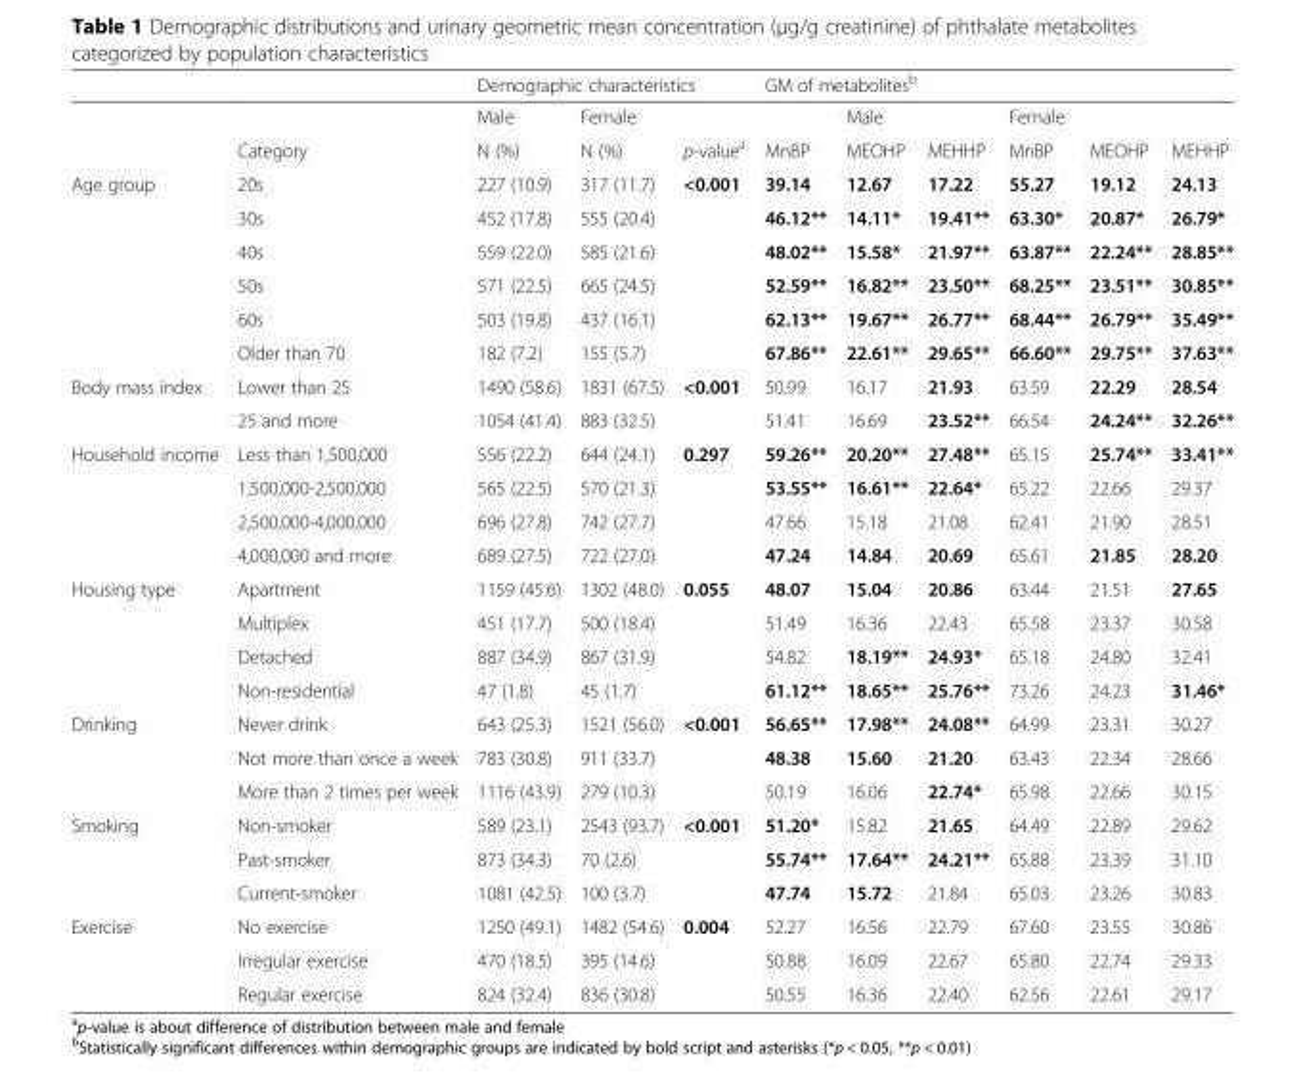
<table><thead><tr><td rowspan="3"></td><td rowspan="3">Category</td><td colspan="3">Demographic characteristics</td><td colspan="6">GM of metabolites<sup>b</sup></td></tr><tr><td rowspan="2">Male N (%)</td><td rowspan="2">Female N (%)</td><td rowspan="2">p-value<sup>a</sup></td><td rowspan="2">MnBP</td><td rowspan="2">Male MEOHP</td><td rowspan="2">MEHHP</td><td colspan="3">Female</td></tr><tr><td>MnBP</td><td>MEOHP</td><td>MEHHP</td></tr></thead><tbody><tr><td rowspan="6">Age group</td><td>20s</td><td>227 (10.9)</td><td>317 (11.7)</td><td rowspan="6">&lt;0.001</td><td>39.14</td><td>12.67</td><td>17.22</td><td>55.27</td><td>19.12</td><td>24.13</td></tr><tr><td>30s</td><td>452 (17.8)</td><td>555 (20.4)</td><td>46.12**</td><td>14.11*</td><td>19.41**</td><td>63.30*</td><td>20.87*</td><td>26.79*</td></tr><tr><td>40s</td><td>559 (22.0)</td><td>585 (21.6)</td><td>48.02**</td><td>15.58*</td><td>21.97**</td><td>63.87**</td><td>22.24**</td><td>28.85**</td></tr><tr><td>50s</td><td>571 (22.5)</td><td>665 (24.5)</td><td>52.59**</td><td>16.82**</td><td>23.50**</td><td>68.25**</td><td>23.51**</td><td>30.85**</td></tr><tr><td>60s</td><td>503 (19.8)</td><td>437 (16.1)</td><td>62.13**</td><td>19.67**</td><td>26.77**</td><td>68.44**</td><td>26.79**</td><td>35.49**</td></tr><tr><td>Older than 70</td><td>182 (7.2)</td><td>155 (5.7)</td><td>67.86**</td><td>22.61**</td><td>29.65**</td><td>66.60**</td><td>29.75**</td><td>37.63**</td></tr><tr><td rowspan="2">Body mass index</td><td>Lower than 25</td><td>1490 (58.6)</td><td>1831 (67.5)</td><td rowspan="2">&lt;0.001</td><td>50.99</td><td>16.17</td><td>21.93</td><td>63.59</td><td>22.29</td><td>28.54</td></tr><tr><td>25 and more</td><td>1054 (41.4)</td><td>883 (32.5)</td><td>51.41</td><td>16.69</td><td>23.52**</td><td>66.54</td><td>24.24**</td><td>32.26**</td></tr><tr><td rowspan="4">Household income</td><td>Less than 1,500,000</td><td>556 (22.2)</td><td>644 (24.1)</td><td rowspan="4">0.297</td><td>59.26**</td><td>20.20**</td><td>27.48**</td><td>65.15</td><td>25.74**</td><td>33.41**</td></tr><tr><td>1,500,000-2,500,000</td><td>565 (22.5)</td><td>570 (21.3)</td><td>53.55**</td><td>16.61**</td><td>22.64*</td><td>65.22</td><td>22.66</td><td>29.37</td></tr><tr><td>2,500,000-4,000,000</td><td>696 (27.8)</td><td>742 (27.7)</td><td>47.66</td><td>15.18</td><td>21.08</td><td>62.41</td><td>21.90</td><td>28.51</td></tr><tr><td>4,000,000 and more</td><td>689 (27.5)</td><td>722 (27.0)</td><td>47.24</td><td>14.84</td><td>20.69</td><td>65.61</td><td>21.85</td><td>28.20</td></tr><tr><td rowspan="4">Housing type</td><td>Apartment</td><td>1159 (45.6)</td><td>1302 (48.0)</td><td rowspan="4">0.055</td><td>48.07</td><td>15.04</td><td>20.86</td><td>63.44</td><td>21.51</td><td>27.65</td></tr><tr><td>Multiplex</td><td>451 (17.7)</td><td>500 (18.4)</td><td>51.49</td><td>16.36</td><td>22.43</td><td>65.58</td><td>23.37</td><td>30.58</td></tr><tr><td>Detached</td><td>887 (34.9)</td><td>867 (31.9)</td><td>54.82</td><td>18.19**</td><td>24.93*</td><td>65.18</td><td>24.80</td><td>32.41</td></tr><tr><td>Non-residential</td><td>47 (1.8)</td><td>45 (1.7)</td><td>61.12**</td><td>18.65**</td><td>25.76**</td><td>73.26</td><td>24.23</td><td>31.46*</td></tr><tr><td rowspan="3">Drinking</td><td>Never drink</td><td>643 (25.3)</td><td>1521 (56.0)</td><td rowspan="3">&lt;0.001</td><td>56.65**</td><td>17.98**</td><td>24.08**</td><td>64.99</td><td>23.31</td><td>30.27</td></tr><tr><td>Not more than once a week</td><td>783 (30.8)</td><td>911 (33.7)</td><td>48.38</td><td>15.60</td><td>21.20</td><td>63.43</td><td>22.34</td><td>28.66</td></tr><tr><td>More than 2 times per week</td><td>1116 (43.9)</td><td>279 (10.3)</td><td>50.19</td><td>16.06</td><td>22.74*</td><td>65.98</td><td>22.66</td><td>30.15</td></tr><tr><td rowspan="3">Smoking</td><td>Non-smoker</td><td>589 (23.1)</td><td>2543 (93.7)</td><td rowspan="3">&lt;0.001</td><td>51.20*</td><td>15.82</td><td>21.65</td><td>64.49</td><td>22.89</td><td>29.62</td></tr><tr><td>Past-smoker</td><td>873 (34.3)</td><td>70 (2.6)</td><td>55.74**</td><td>17.64**</td><td>24.21**</td><td>65.88</td><td>23.39</td><td>31.10</td></tr><tr><td>Current-smoker</td><td>1081 (42.5)</td><td>100 (3.7)</td><td>47.74</td><td>15.72</td><td>21.84</td><td>65.03</td><td>23.26</td><td>30.83</td></tr><tr><td rowspan="3">Exercise</td><td>No exercise</td><td>1250 (49.1)</td><td>1482 (54.6)</td><td rowspan="3">0.004</td><td>52.27</td><td>16.56</td><td>22.79</td><td>67.60</td><td>23.55</td><td>30.86</td></tr><tr><td>Irregular exercise</td><td>470 (18.5)</td><td>395 (14.6)</td><td>50.88</td><td>16.09</td><td>22.67</td><td>65.80</td><td>22.74</td><td>29.33</td></tr><tr><td>Regular exercise</td><td>824 (32.4)</td><td>836 (30.8)</td><td>50.55</td><td>16.36</td><td>22.40</td><td>62.56</td><td>22.61</td><td>29.17</td></tr></tbody></table>